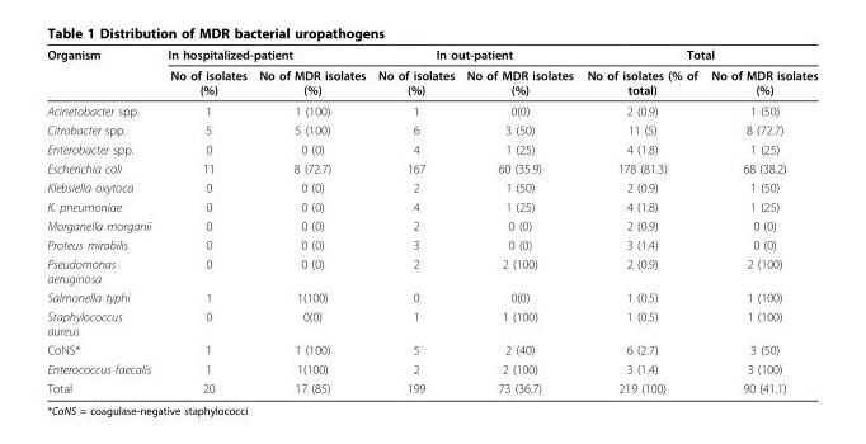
<table><thead><tr><td rowspan="2">Organism</td><td colspan="2">In hospitalized-patient</td><td colspan="2">In out-patient</td><td colspan="2">Total</td></tr><tr><td>No of isolates (%)</td><td>No of MDR isolates (%)</td><td>No of isolates (%)</td><td>No of MDR isolates (%)</td><td>No of isolates (% of total)</td><td>No of MDR isolates (%)</td></tr></thead><tbody><tr><td>Acinetobacter spp.</td><td>1</td><td>1 (100)</td><td>1</td><td>0(0)</td><td>2 (0.9)</td><td>1 (50)</td></tr><tr><td>Citrobacter spp.</td><td>5</td><td>5 (100)</td><td>6</td><td>3 (50)</td><td>11 (5)</td><td>8 (72.7)</td></tr><tr><td>Enterobacter spp.</td><td>0</td><td>0 (0)</td><td>4</td><td>1 (25)</td><td>4 (1.8)</td><td>1 (25)</td></tr><tr><td>Escherichia coli</td><td>11</td><td>8 (72.7)</td><td>167</td><td>60 (35.9)</td><td>178 (81.3)</td><td>68 (38.2)</td></tr><tr><td>Klebsiella oxytoca</td><td>0</td><td>0 (0)</td><td>2</td><td>1 (50)</td><td>2 (0.9)</td><td>1 (50)</td></tr><tr><td>K. pneumoniae</td><td>0</td><td>0 (0)</td><td>4</td><td>1 (25)</td><td>4 (1.8)</td><td>1 (25)</td></tr><tr><td>Morganella morganii</td><td>0</td><td>0 (0)</td><td>2</td><td>0 (0)</td><td>2 (0.9)</td><td>0 (0)</td></tr><tr><td>Proteus mirabilis</td><td>0</td><td>0 (0)</td><td>3</td><td>0 (0)</td><td>3 (1.4)</td><td>0 (0)</td></tr><tr><td>Pseudomonas aeruginosa</td><td>0</td><td>0 (0)</td><td>2</td><td>2 (100)</td><td>2 (0.9)</td><td>2 (100)</td></tr><tr><td>Salmonella typhi</td><td>1</td><td>1(100)</td><td>0</td><td>0(0)</td><td>1 (0.5)</td><td>1 (100)</td></tr><tr><td>Staphylococcus aureus</td><td>0</td><td>0(0)</td><td>1</td><td>1 (100)</td><td>1 (0.5)</td><td>1 (100)</td></tr><tr><td>CoNS*</td><td>1</td><td>1 (100)</td><td>5</td><td>2 (40)</td><td>6 (2.7)</td><td>3 (50)</td></tr><tr><td>Enterococcus faecalis</td><td>1</td><td>1(100)</td><td>2</td><td>2 (100)</td><td>3 (1.4)</td><td>3 (100)</td></tr><tr><td>Total</td><td>20</td><td>17 (85)</td><td>199</td><td>73 (36.7)</td><td>219 (100)</td><td>90 (41.1)</td></tr></tbody></table>